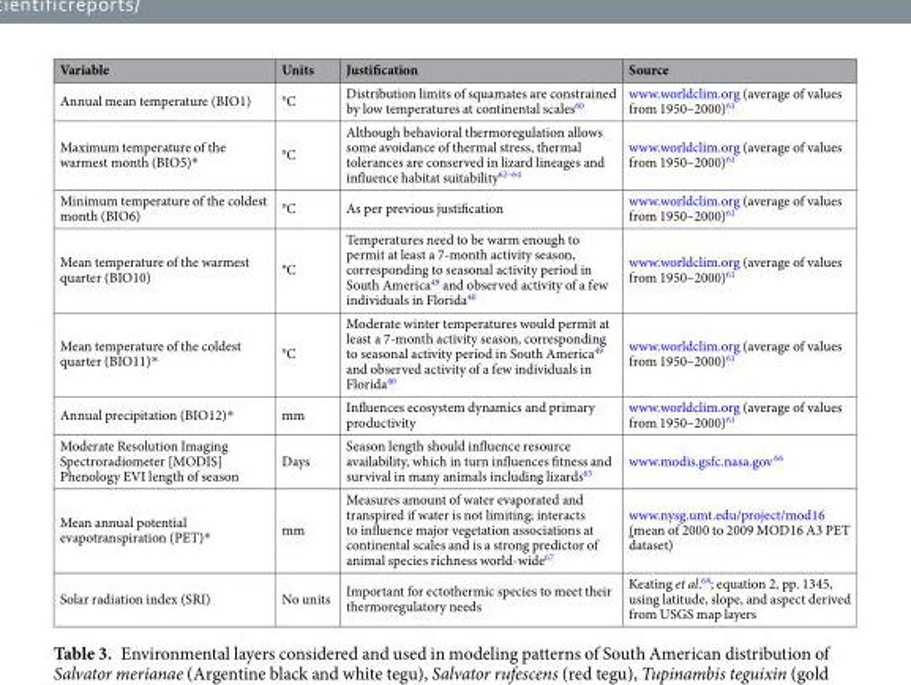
<table><thead><tr><td>Variable</td><td>Units</td><td>Justification</td><td>Source</td></tr></thead><tbody><tr><td>Annual mean temperature (BIO1)</td><td>°C</td><td>Distribution limits of squamates are constrained by low temperatures at continental scales<sup>60</sup></td><td>www.worldclim.org (average of values from 1950–2000)<sup>61</sup></td></tr><tr><td>Maximum temperature of the warmest month (BIO5)*</td><td>°C</td><td>Although behavioral thermoregulation allows some avoidance of thermal stress, thermal tolerances are conserved in lizard lineages and influence habitat suitability<sup>62–64</sup></td><td>www.worldclim.org (average of values from 1950–2000)<sup>61</sup></td></tr><tr><td>Minimum temperature of the coldest month (BIO6)</td><td>°C</td><td>As per previous justification</td><td>www.worldclim.org (average of values from 1950–2000)<sup>61</sup></td></tr><tr><td>Mean temperature of the warmest quarter (BIO10)</td><td>°C</td><td>Temperatures need to be warm enough to permit at least a 7-month activity season, corresponding to seasonal activity period in South America<sup>49</sup> and observed activity of a few individuals in Florida<sup>40</sup></td><td>www.worldclim.org (average of values from 1950–2000)<sup>61</sup></td></tr><tr><td>Mean temperature of the coldest quarter (BIO11)*</td><td>°C</td><td>Moderate winter temperatures would permit at least a 7-month activity season, corresponding to seasonal activity period in South America<sup>49</sup> and observed activity of a few individuals in Florida<sup>40</sup></td><td>www.worldclim.org (average of values from 1950–2000)<sup>61</sup></td></tr><tr><td>Annual precipitation (BIO12)*</td><td>mm</td><td>Influences ecosystem dynamics and primary productivity</td><td>www.worldclim.org (average of values from 1950–2000)<sup>61</sup></td></tr><tr><td>Moderate Resolution Imaging Spectroradiometer [MODIS] Phenology EVI length of season</td><td>Days</td><td>Season length should influence resource availability, which in turn influences fitness and survival in many animals including lizards<sup>65</sup></td><td>www.modis.gsfc.nasa.gov <sup>66</sup></td></tr><tr><td>Mean annual potential evapotranspiration (PET)*</td><td>mm</td><td>Measures amount of water evaporated and transpired if water is not limiting; interacts to influence major vegetation associations at continental scales and is a strong predictor of animal species richness world-wide<sup>67</sup></td><td>www.nysg.umt.edu/project/mod16 (mean of 2000 to 2009 MOD16 A3 PET dataset)</td></tr><tr><td>Solar radiation index (SRI)</td><td>No units</td><td>Important for ectothermic species to meet their thermoregulatory needs</td><td>Keating et al.<sup>68</sup>; equation 2, pp. 1345, using latitude, slope, and aspect derived from USGS map layers</td></tr></tbody></table>